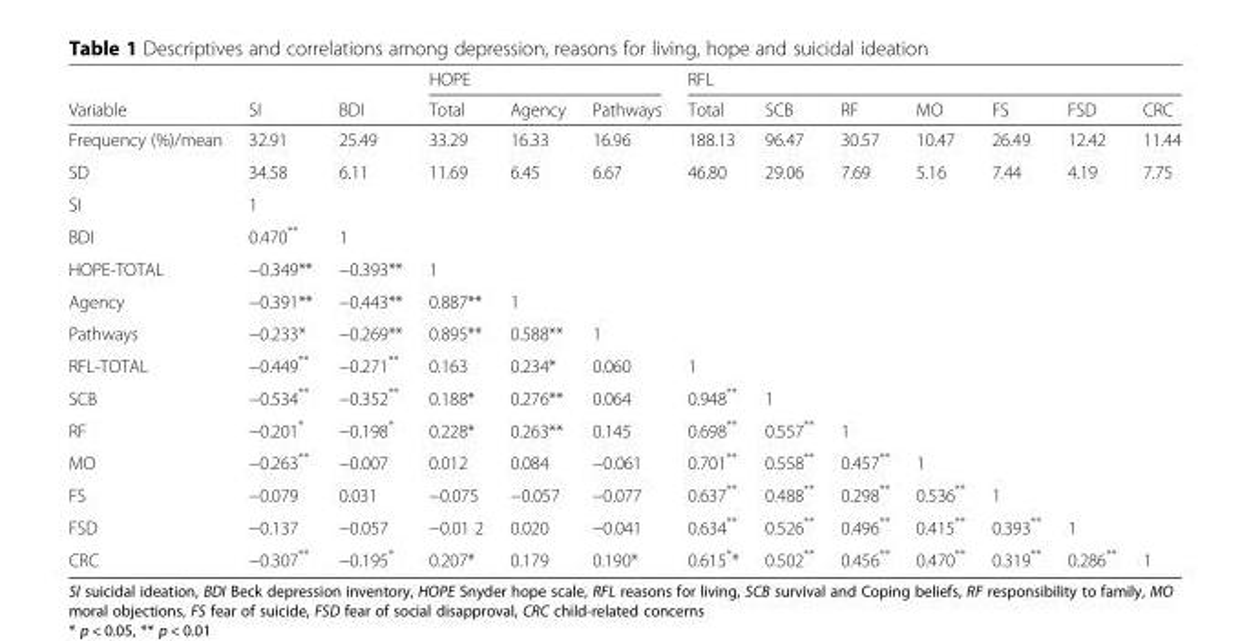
<table><thead><tr><td rowspan="2">Variable</td><td rowspan="2">SI</td><td rowspan="2">BDI</td><td colspan="3">HOPE</td><td colspan="7">RFL</td></tr><tr><td>Total</td><td>Agency</td><td>Pathways</td><td>Total</td><td>SCB</td><td>RF</td><td>MO</td><td>FS</td><td>FSD</td><td>CRC</td></tr></thead><tbody><tr><td>Frequency (%)/mean</td><td>32.91</td><td>25.49</td><td>33.29</td><td>16.33</td><td>16.96</td><td>188.13</td><td>96.47</td><td>30.57</td><td>10.47</td><td>26.49</td><td>12.42</td><td>11.44</td></tr><tr><td>SD</td><td>34.58</td><td>6.11</td><td>11.69</td><td>6.45</td><td>6.67</td><td>46.80</td><td>29.06</td><td>7.69</td><td>5.16</td><td>7.44</td><td>4.19</td><td>7.75</td></tr><tr><td>SI</td><td>1</td><td></td><td></td><td></td><td></td><td></td><td></td><td></td><td></td><td></td><td></td><td></td></tr><tr><td>BDI</td><td>0.470**</td><td>1</td><td></td><td></td><td></td><td></td><td></td><td></td><td></td><td></td><td></td><td></td></tr><tr><td>HOPE-TOTAL</td><td>−0.349**</td><td>−0.393**</td><td>1</td><td></td><td></td><td></td><td></td><td></td><td></td><td></td><td></td><td></td></tr><tr><td>Agency</td><td>−0.391**</td><td>−0.443**</td><td>0.887**</td><td>1</td><td></td><td></td><td></td><td></td><td></td><td></td><td></td><td></td></tr><tr><td>Pathways</td><td>−0.233*</td><td>−0.269**</td><td>0.895**</td><td>0.588**</td><td>1</td><td></td><td></td><td></td><td></td><td></td><td></td><td></td></tr><tr><td>RFL-TOTAL</td><td>−0.449**</td><td>−0.271**</td><td>0.163</td><td>0.234*</td><td>0.060</td><td>1</td><td></td><td></td><td></td><td></td><td></td><td></td></tr><tr><td>SCB</td><td>−0.534**</td><td>−0.352**</td><td>0.188*</td><td>0.276**</td><td>0.064</td><td>0.948**</td><td>1</td><td></td><td></td><td></td><td></td><td></td></tr><tr><td>RF</td><td>−0.201*</td><td>−0.198*</td><td>0.228*</td><td>0.263**</td><td>0.145</td><td>0.698**</td><td>0.557**</td><td>1</td><td></td><td></td><td></td><td></td></tr><tr><td>MO</td><td>−0.263**</td><td>−0.007</td><td>0.012</td><td>0.084</td><td>−0.061</td><td>0.701**</td><td>0.558**</td><td>0.457**</td><td>1</td><td></td><td></td><td></td></tr><tr><td>FS</td><td>−0.079</td><td>0.031</td><td>−0.075</td><td>−0.057</td><td>−0.077</td><td>0.637**</td><td>0.488**</td><td>0.298**</td><td>0.536**</td><td>1</td><td></td><td></td></tr><tr><td>FSD</td><td>−0.137</td><td>−0.057</td><td>−0.01 2</td><td>0.020</td><td>−0.041</td><td>0.634**</td><td>0.526**</td><td>0.496**</td><td>0.415**</td><td>0.393**</td><td>1</td><td></td></tr><tr><td>CRC</td><td>−0.307**</td><td>−0.195*</td><td>0.207*</td><td>0.179</td><td>0.190*</td><td>0.615**</td><td>0.502**</td><td>0.456**</td><td>0.470**</td><td>0.319**</td><td>0.286**</td><td>1</td></tr></tbody></table>